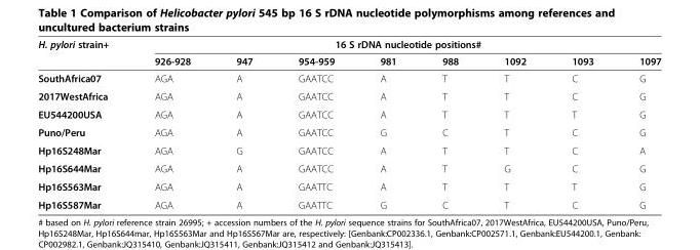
<table><thead><tr><td rowspan="2">H. pylori strain+</td><td colspan="8">16 S rDNA nucleotide positions#</td></tr><tr><td>926-928</td><td>947</td><td>954-959</td><td>981</td><td>988</td><td>1092</td><td>1093</td><td>1097</td></tr></thead><tbody><tr><td>SouthAfrica07</td><td>AGA</td><td>A</td><td>GAATCC</td><td>A</td><td>T</td><td>T</td><td>C</td><td>G</td></tr><tr><td>2017WestAfrica</td><td>AGA</td><td>A</td><td>GAATCC</td><td>A</td><td>T</td><td>T</td><td>C</td><td>G</td></tr><tr><td>EU544200USA</td><td>AGA</td><td>A</td><td>GAATCC</td><td>A</td><td>T</td><td>T</td><td>T</td><td>G</td></tr><tr><td>Puno/Peru</td><td>AGA</td><td>A</td><td>GAATCC</td><td>G</td><td>C</td><td>T</td><td>C</td><td>G</td></tr><tr><td>Hp16S248Mar</td><td>AGA</td><td>G</td><td>GAATCC</td><td>A</td><td>T</td><td>T</td><td>C</td><td>A</td></tr><tr><td>Hp16S644Mar</td><td>AGA</td><td>A</td><td>GAATCC</td><td>A</td><td>T</td><td>G</td><td>C</td><td>G</td></tr><tr><td>Hp16S563Mar</td><td>AGA</td><td>A</td><td>GAATTC</td><td>A</td><td>T</td><td>T</td><td>T</td><td>G</td></tr><tr><td>Hp16S587Mar</td><td>AGA</td><td>A</td><td>GAATTC</td><td>G</td><td>C</td><td>T</td><td>C</td><td>G</td></tr></tbody></table>